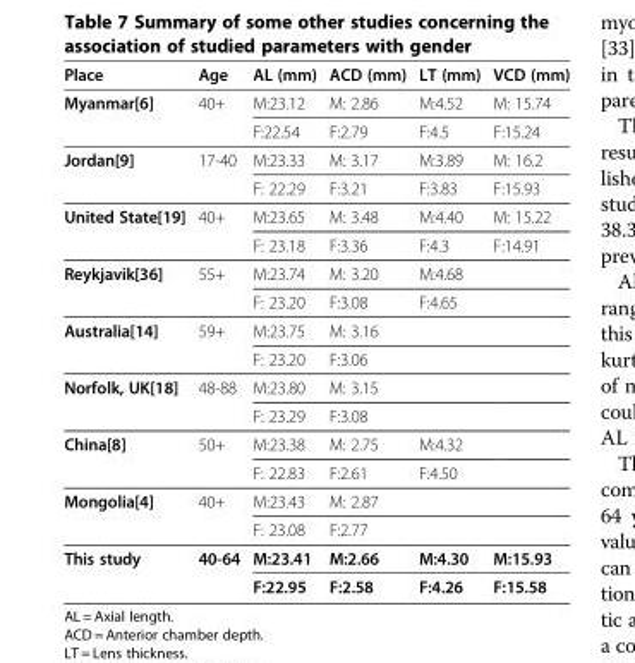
<table><thead><tr><td>Place</td><td>Age</td><td>AL (mm)</td><td>ACD (mm)</td><td>LT (mm)</td><td>VCD (mm)</td></tr></thead><tbody><tr><td rowspan="2">Myanmar[6]</td><td rowspan="2">40+</td><td>M:23.12</td><td>M: 2.86</td><td>M:4.52</td><td>M: 15.74</td></tr><tr><td>F:22.54</td><td>F:2.79</td><td>F:4.5</td><td>F:15.24</td></tr><tr><td rowspan="2">Jordan[9]</td><td rowspan="2">17-40</td><td>M:23.33</td><td>M: 3.17</td><td>M:3.89</td><td>M: 16.2</td></tr><tr><td>F: 22.29</td><td>F:3.21</td><td>F:3.83</td><td>F:15.93</td></tr><tr><td rowspan="2">United State[19]</td><td rowspan="2">40+</td><td>M:23.65</td><td>M: 3.48</td><td>M:4.40</td><td>M: 15.22</td></tr><tr><td>F: 23.18</td><td>F:3.36</td><td>F:4.3</td><td>F:14.91</td></tr><tr><td rowspan="2">Reykjavik[36]</td><td rowspan="2">55+</td><td>M:23.74</td><td>M: 3.20</td><td>M:4.68</td><td></td></tr><tr><td>F: 23.20</td><td>F:3.08</td><td>F:4.65</td><td></td></tr><tr><td rowspan="2">Australia[14]</td><td rowspan="2">59+</td><td>M:23.75</td><td>M: 3.16</td><td></td><td></td></tr><tr><td>F: 23.20</td><td>F:3.06</td><td></td><td></td></tr><tr><td rowspan="2">Norfolk, UK[18]</td><td rowspan="2">48-88</td><td>M:23.80</td><td>M: 3.15</td><td></td><td></td></tr><tr><td>F: 23.29</td><td>F:3.08</td><td></td><td></td></tr><tr><td rowspan="2">China[8]</td><td rowspan="2">50+</td><td>M:23.38</td><td>M: 2.75</td><td>M:4.32</td><td></td></tr><tr><td>F: 22.83</td><td>F:2.61</td><td>F:4.50</td><td></td></tr><tr><td rowspan="2">Mongolia[4]</td><td rowspan="2">40+</td><td>M:23.43</td><td>M: 2.87</td><td></td><td></td></tr><tr><td>F: 23.08</td><td>F:2.77</td><td></td><td></td></tr><tr><td rowspan="2">This study</td><td rowspan="2">40-64</td><td>M:23.41</td><td>M:2.66</td><td>M:4.30</td><td>M:15.93</td></tr><tr><td>F:22.95</td><td>F:2.58</td><td>F:4.26</td><td>F:15.58</td></tr></tbody></table>